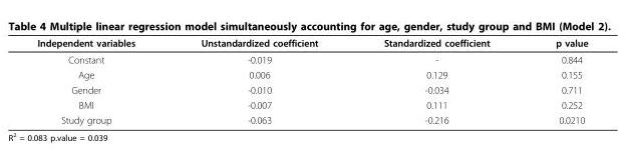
<table><thead><tr><td>Independent variables</td><td>Unstandardized coefficient</td><td>Standardized coefficient</td><td>p value</td></tr></thead><tbody><tr><td>Constant</td><td>-0.019</td><td>-</td><td>0.844</td></tr><tr><td>Age</td><td>0.006</td><td>0.129</td><td>0.155</td></tr><tr><td>Gender</td><td>-0.010</td><td>-0.034</td><td>0.711</td></tr><tr><td>BMI</td><td>-0.007</td><td>0.111</td><td>0.252</td></tr><tr><td>Study group</td><td>-0.063</td><td>-0.216</td><td>0.0210</td></tr></tbody></table>